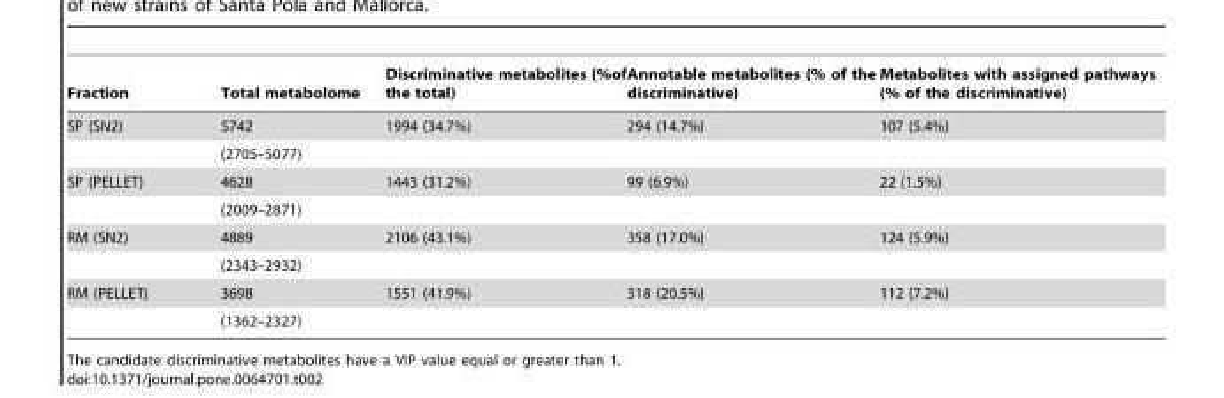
<table><thead><tr><td>Fraction</td><td>Total metabolome</td><td>Discriminative metabolites (%of the total)</td><td>Annotable metabolites (% of the discriminative)</td><td>Metabolites with assigned pathways (% of the discriminative)</td></tr></thead><tbody><tr><td rowspan="2">SP (SN2)</td><td>5742</td><td>1994 (34.7%)</td><td>294 (14.7%)</td><td>107 (5.4%)</td></tr><tr><td>(2705–5077)</td><td></td><td></td><td></td></tr><tr><td rowspan="2">SP (PELLET)</td><td>4628</td><td>1443 (31.2%)</td><td>99 (6.9%)</td><td>22 (1.5%)</td></tr><tr><td>(2009–2871)</td><td></td><td></td><td></td></tr><tr><td rowspan="2">RM (SN2)</td><td>4889</td><td>2106 (43.1%)</td><td>358 (17.0%)</td><td>124 (5.9%)</td></tr><tr><td>(2343–2932)</td><td></td><td></td><td></td></tr><tr><td rowspan="2">RM (PELLET)</td><td>3698</td><td>1551 (41.9%)</td><td>318 (20.5%)</td><td>112 (7.2%)</td></tr><tr><td>(1362–2327)</td><td></td><td></td><td></td></tr></tbody></table>